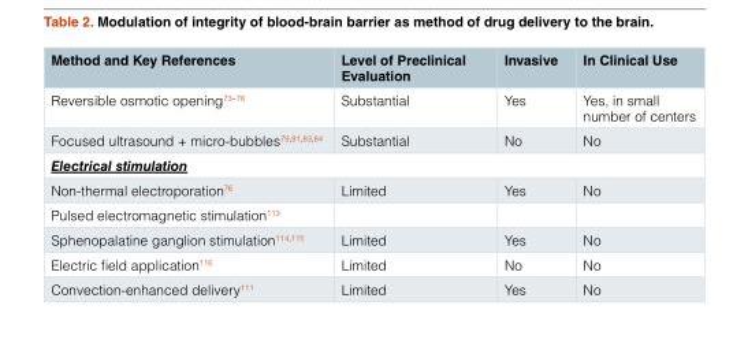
<table><thead><tr><td>Method and Key References</td><td>Level of Preclinical Evaluation</td><td>Invasive</td><td>In Clinical Use</td></tr></thead><tbody><tr><td>Reversible osmotic opening<sup>73–76</sup></td><td>Substantial</td><td>Yes</td><td>Yes, in small number of centers</td></tr><tr><td>Focused ultrasound + micro-bubbles<sup>79,81,83,84</sup></td><td>Substantial</td><td>No</td><td>No</td></tr><tr><td colspan="4">Electrical stimulation</td></tr><tr><td>Non-thermal electroporation<sup>76</sup></td><td>Limited</td><td>Yes</td><td>No</td></tr><tr><td colspan="4">Pulsed electromagnetic stimulation<sup>113</sup></td></tr><tr><td>Sphenopalatine ganglion stimulation<sup>114,115</sup></td><td>Limited</td><td>Yes</td><td>No</td></tr><tr><td>Electric field application<sup>116</sup></td><td>Limited</td><td>No</td><td>No</td></tr><tr><td>Convection-enhanced delivery<sup>111</sup></td><td>Limited</td><td>Yes</td><td>No</td></tr></tbody></table>